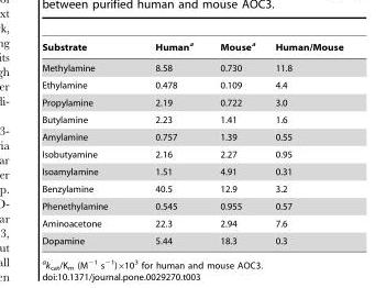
<table><thead><tr><td>Substrate</td><td>Human<sup>a</sup></td><td>Mouse<sup>a</sup></td><td>Human/Mouse</td></tr></thead><tbody><tr><td>Methylamine</td><td>8.58</td><td>0.730</td><td>11.8</td></tr><tr><td>Ethylamine</td><td>0.478</td><td>0.109</td><td>4.4</td></tr><tr><td>Propylamine</td><td>2.19</td><td>0.722</td><td>3.0</td></tr><tr><td>Butylamine</td><td>2.23</td><td>1.41</td><td>1.6</td></tr><tr><td>Amylamine</td><td>0.757</td><td>1.39</td><td>0.55</td></tr><tr><td>Isobutyamine</td><td>2.16</td><td>2.27</td><td>0.95</td></tr><tr><td>Isoamylamine</td><td>1.51</td><td>4.91</td><td>0.31</td></tr><tr><td>Benzylamine</td><td>40.5</td><td>12.9</td><td>3.2</td></tr><tr><td>Phenethylamine</td><td>0.545</td><td>0.955</td><td>0.57</td></tr><tr><td>Aminoacetone</td><td>22.3</td><td>2.94</td><td>7.6</td></tr><tr><td>Dopamine</td><td>5.44</td><td>18.3</td><td>0.3</td></tr></tbody></table>